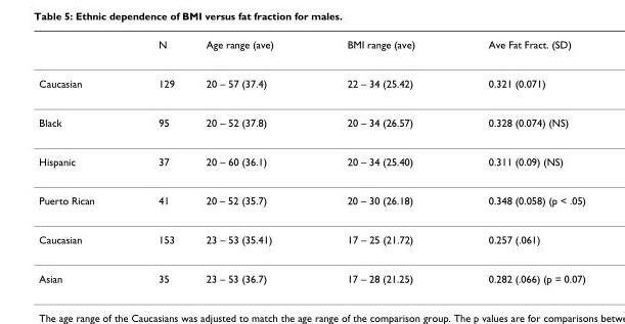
<table><thead><tr><td></td><td>N</td><td>Age range (ave)</td><td>BMI range (ave)</td><td>Ave Fat Fract. (SD)</td></tr></thead><tbody><tr><td>Caucasian</td><td>129</td><td>20 – 57 (37.4)</td><td>22 – 34 (25.42)</td><td>0.321 (0.071)</td></tr><tr><td>Black</td><td>95</td><td>20 – 52 (37.8)</td><td>20 – 34 (26.57)</td><td>0.328 (0.074) (NS)</td></tr><tr><td>Hispanic</td><td>37</td><td>20 – 60 (36.1)</td><td>20 – 34 (25.40)</td><td>0.311 (0.09) (NS)</td></tr><tr><td>Puerto Rican</td><td>41</td><td>20 – 52 (35.7)</td><td>20 – 30 (26.18)</td><td>0.348 (0.058) (p &lt; .05)</td></tr><tr><td>Caucasian</td><td>153</td><td>23 – 53 (35.41)</td><td>17 – 25 (21.72)</td><td>0.257 (.061)</td></tr><tr><td>Asian</td><td>35</td><td>23 – 53 (36.7)</td><td>17 – 28 (21.25)</td><td>0.282 (.066) (p = 0.07)</td></tr></tbody></table>